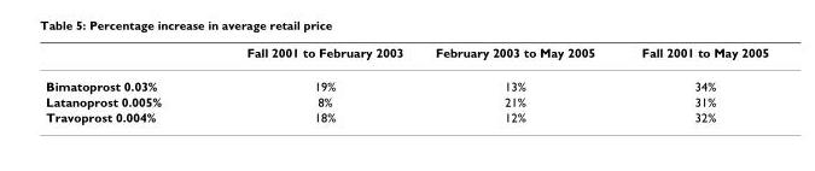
<table><thead><tr><td></td><td>Fall 2001 to February 2003</td><td>February 2003 to May 2005</td><td>Fall 2001 to May 2005</td></tr></thead><tbody><tr><td>Bimatoprost 0.03%</td><td>19%</td><td>13%</td><td>34%</td></tr><tr><td>Latanoprost 0.005%</td><td>8%</td><td>21%</td><td>31%</td></tr><tr><td>Travoprost 0.004%</td><td>18%</td><td>12%</td><td>32%</td></tr></tbody></table>